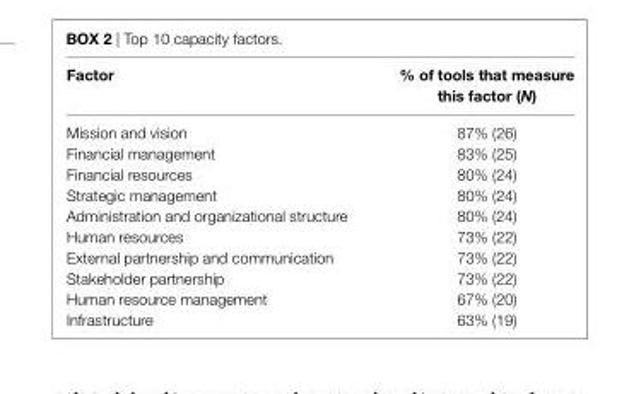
<table><thead><tr><td>Factor</td><td>% of tools that measure this factor (N)</td></tr></thead><tbody><tr><td>Mission and vision</td><td>87% (26)</td></tr><tr><td>Financial management</td><td>83% (25)</td></tr><tr><td>Financial resources</td><td>80% (24)</td></tr><tr><td>Strategic management</td><td>80% (24)</td></tr><tr><td>Administration and organizational structure</td><td>80% (24)</td></tr><tr><td>Human resources</td><td>73% (22)</td></tr><tr><td>External partnership and communication</td><td>73% (22)</td></tr><tr><td>Stakeholder partnership</td><td>73% (22)</td></tr><tr><td>Human resource management</td><td>67% (20)</td></tr><tr><td>Infrastructure</td><td>63% (19)</td></tr></tbody></table>